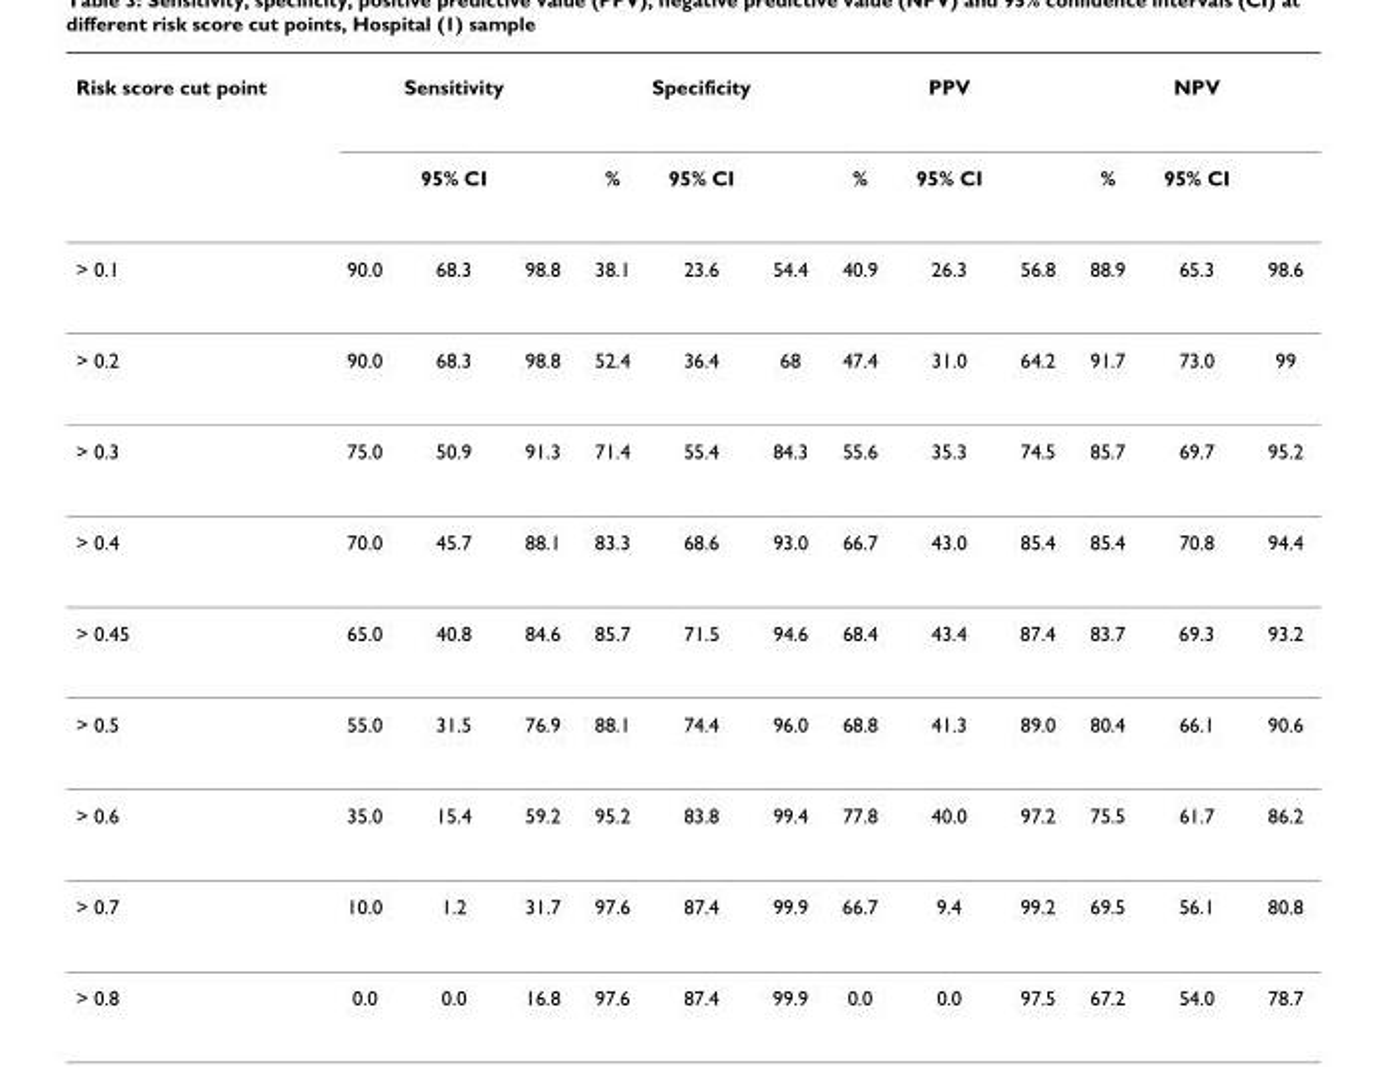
<table><thead><tr><td rowspan="2">Risk score cut point</td><td colspan="3">Sensitivity</td><td colspan="3">Specificity</td><td colspan="3">PPV</td><td colspan="3">NPV</td></tr><tr><td></td><td>95% CI</td><td></td><td>%</td><td>95% CI</td><td></td><td>%</td><td>95% CI</td><td></td><td>%</td><td>95% CI</td><td></td></tr></thead><tbody><tr><td>&gt; 0.1</td><td>90.0</td><td>68.3</td><td>98.8</td><td>38.1</td><td>23.6</td><td>54.4</td><td>40.9</td><td>26.3</td><td>56.8</td><td>88.9</td><td>65.3</td><td>98.6</td></tr><tr><td>&gt; 0.2</td><td>90.0</td><td>68.3</td><td>98.8</td><td>52.4</td><td>36.4</td><td>68</td><td>47.4</td><td>31.0</td><td>64.2</td><td>91.7</td><td>73.0</td><td>99</td></tr><tr><td>&gt; 0.3</td><td>75.0</td><td>50.9</td><td>91.3</td><td>71.4</td><td>55.4</td><td>84.3</td><td>55.6</td><td>35.3</td><td>74.5</td><td>85.7</td><td>69.7</td><td>95.2</td></tr><tr><td>&gt; 0.4</td><td>70.0</td><td>45.7</td><td>88.1</td><td>83.3</td><td>68.6</td><td>93.0</td><td>66.7</td><td>43.0</td><td>85.4</td><td>85.4</td><td>70.8</td><td>94.4</td></tr><tr><td>&gt; 0.45</td><td>65.0</td><td>40.8</td><td>84.6</td><td>85.7</td><td>71.5</td><td>94.6</td><td>68.4</td><td>43.4</td><td>87.4</td><td>83.7</td><td>69.3</td><td>93.2</td></tr><tr><td>&gt; 0.5</td><td>55.0</td><td>31.5</td><td>76.9</td><td>88.1</td><td>74.4</td><td>96.0</td><td>68.8</td><td>41.3</td><td>89.0</td><td>80.4</td><td>66.1</td><td>90.6</td></tr><tr><td>&gt; 0.6</td><td>35.0</td><td>15.4</td><td>59.2</td><td>95.2</td><td>83.8</td><td>99.4</td><td>77.8</td><td>40.0</td><td>97.2</td><td>75.5</td><td>61.7</td><td>86.2</td></tr><tr><td>&gt; 0.7</td><td>10.0</td><td>1.2</td><td>31.7</td><td>97.6</td><td>87.4</td><td>99.9</td><td>66.7</td><td>9.4</td><td>99.2</td><td>69.5</td><td>56.1</td><td>80.8</td></tr><tr><td>&gt; 0.8</td><td>0.0</td><td>0.0</td><td>16.8</td><td>97.6</td><td>87.4</td><td>99.9</td><td>0.0</td><td>0.0</td><td>97.5</td><td>67.2</td><td>54.0</td><td>78.7</td></tr></tbody></table>